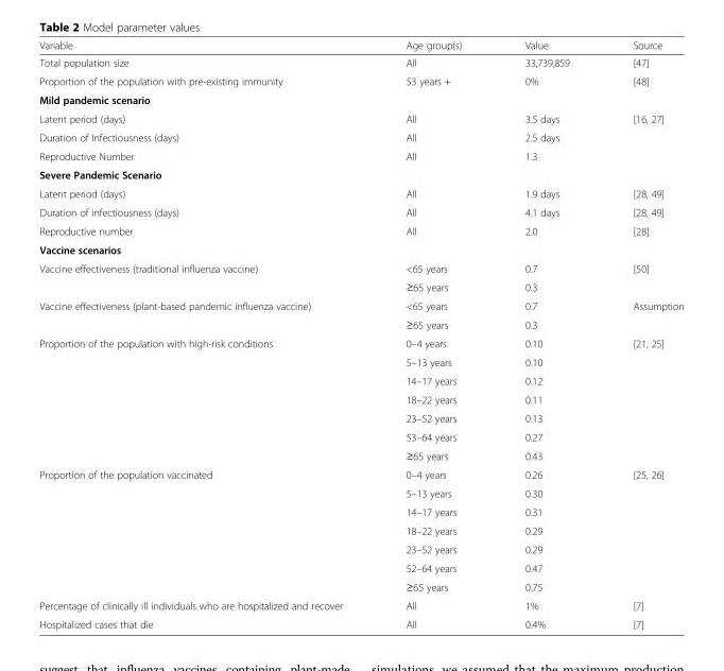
<table><thead><tr><td>Variable</td><td>Age group(s)</td><td>Value</td><td>Source</td></tr></thead><tbody><tr><td>Total population size</td><td>All</td><td>33,739,859</td><td>[47]</td></tr><tr><td>Proportion of the population with pre-existing immunity</td><td>53 years +</td><td>0%</td><td>[48]</td></tr><tr><td colspan="4">Mild pandemic scenario</td></tr><tr><td>Latent period (days)</td><td>All</td><td>3.5 days</td><td rowspan="3">[16, 27]</td></tr><tr><td>Duration of Infectiousness (days)</td><td>All</td><td>2.5 days</td></tr><tr><td>Reproductive Number</td><td>All</td><td>1.3</td></tr><tr><td colspan="4">Severe Pandemic Scenario</td></tr><tr><td>Latent period (days)</td><td>All</td><td>1.9 days</td><td>[28, 49]</td></tr><tr><td>Duration of infectiousness (days)</td><td>All</td><td>4.1 days</td><td>[28, 49]</td></tr><tr><td>Reproductive number</td><td>All</td><td>2.0</td><td>[28]</td></tr><tr><td colspan="4">Vaccine scenarios</td></tr><tr><td rowspan="2">Vaccine effectiveness (traditional influenza vaccine)</td><td>&lt;65 years</td><td>0.7</td><td rowspan="2">[50]</td></tr><tr><td>≥65 years</td><td>0.3</td></tr><tr><td rowspan="2">Vaccine effectiveness (plant-based pandemic influenza vaccine)</td><td>&lt;65 years</td><td>0.7</td><td rowspan="2">Assumption</td></tr><tr><td>≥65 years</td><td>0.3</td></tr><tr><td rowspan="7">Proportion of the population with high-risk conditions</td><td>0–4 years</td><td>0.10</td><td rowspan="7">[21, 25]</td></tr><tr><td>5–13 years</td><td>0.10</td></tr><tr><td>14–17 years</td><td>0.12</td></tr><tr><td>18–22 years</td><td>0.11</td></tr><tr><td>23–52 years</td><td>0.13</td></tr><tr><td>53–64 years</td><td>0.27</td></tr><tr><td>≥65 years</td><td>0.43</td></tr><tr><td rowspan="7">Proportion of the population vaccinated</td><td>0–4 years</td><td>0.26</td><td rowspan="7">[25, 26]</td></tr><tr><td>5–13 years</td><td>0.30</td></tr><tr><td>14–17 years</td><td>0.31</td></tr><tr><td>18–22 years</td><td>0.29</td></tr><tr><td>23–52 years</td><td>0.29</td></tr><tr><td>52–64 years</td><td>0.47</td></tr><tr><td>≥65 years</td><td>0.75</td></tr><tr><td>Percentage of clinically ill individuals who are hospitalized and recover</td><td>All</td><td>1%</td><td>[7]</td></tr><tr><td>Hospitalized cases that die</td><td>All</td><td>0.4%</td><td>[7]</td></tr></tbody></table>